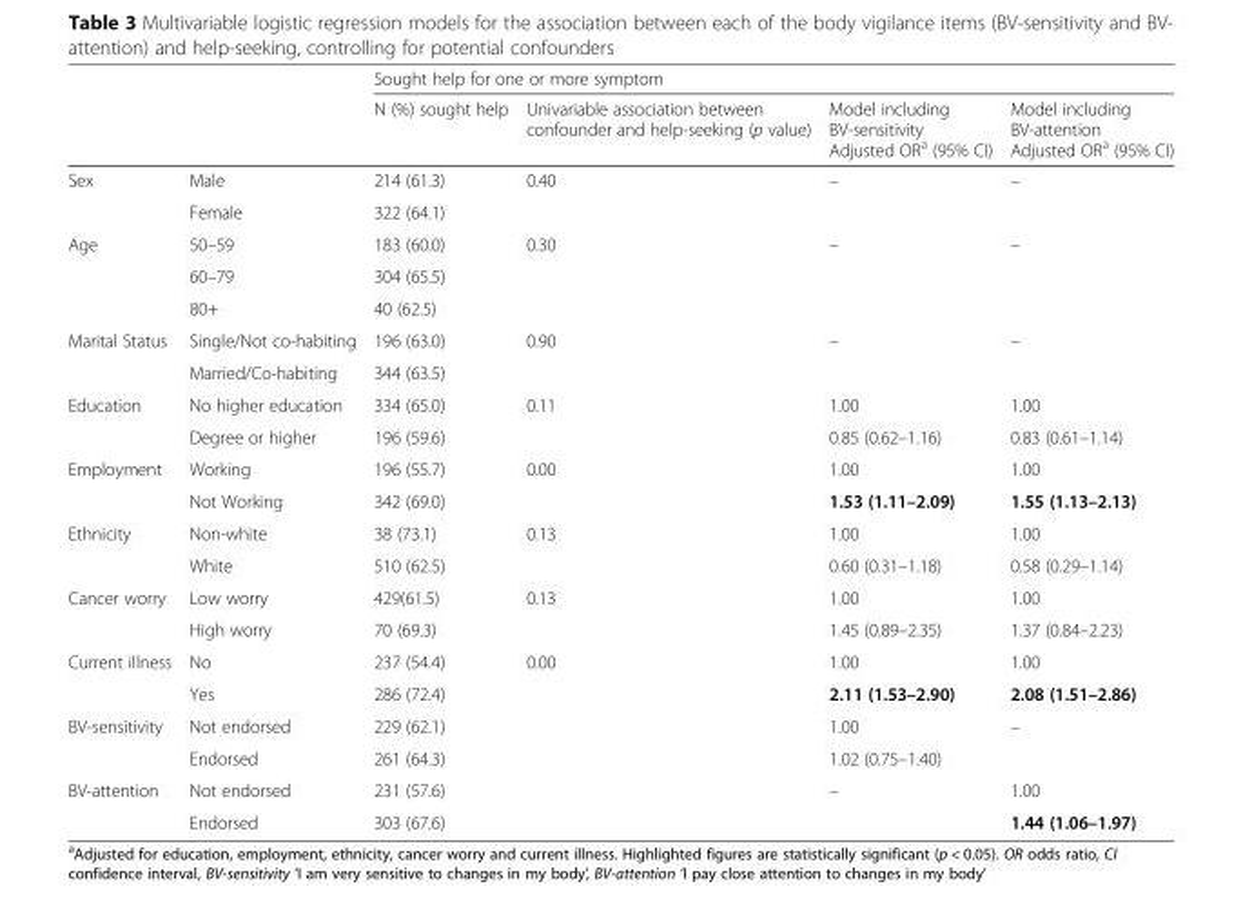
<table><thead><tr><td rowspan="2"></td><td rowspan="2"></td><td colspan="4">Sought help for one or more symptom</td></tr><tr><td>N (%) sought help</td><td>Univariable association between confounder and help-seeking (p value)</td><td>Model including BV-sensitivity Adjusted OR<sup>a</sup> (95% CI)</td><td>Model including BV-attention Adjusted OR<sup>a</sup> (95% CI)</td></tr></thead><tbody><tr><td rowspan="2">Sex</td><td>Male</td><td>214 (61.3)</td><td>0.40</td><td>–</td><td>–</td></tr><tr><td>Female</td><td>322 (64.1)</td><td></td><td></td><td></td></tr><tr><td rowspan="3">Age</td><td>50–59</td><td>183 (60.0)</td><td>0.30</td><td>–</td><td>–</td></tr><tr><td>60–79</td><td>304 (65.5)</td><td></td><td></td><td></td></tr><tr><td>80+</td><td>40 (62.5)</td><td></td><td></td><td></td></tr><tr><td rowspan="2">Marital Status</td><td>Single/Not co-habiting</td><td>196 (63.0)</td><td>0.90</td><td>–</td><td>–</td></tr><tr><td>Married/Co-habiting</td><td>344 (63.5)</td><td></td><td></td><td></td></tr><tr><td rowspan="2">Education</td><td>No higher education</td><td>334 (65.0)</td><td>0.11</td><td>1.00</td><td>1.00</td></tr><tr><td>Degree or higher</td><td>196 (59.6)</td><td></td><td>0.85 (0.62–1.16)</td><td>0.83 (0.61–1.14)</td></tr><tr><td rowspan="2">Employment</td><td>Working</td><td>196 (55.7)</td><td>0.00</td><td>1.00</td><td>1.00</td></tr><tr><td>Not Working</td><td>342 (69.0)</td><td></td><td>1.53 (1.11–2.09)</td><td>1.55 (1.13–2.13)</td></tr><tr><td rowspan="2">Ethnicity</td><td>Non-white</td><td>38 (73.1)</td><td>0.13</td><td>1.00</td><td>1.00</td></tr><tr><td>White</td><td>510 (62.5)</td><td></td><td>0.60 (0.31–1.18)</td><td>0.58 (0.29–1.14)</td></tr><tr><td rowspan="2">Cancer worry</td><td>Low worry</td><td>429(61.5)</td><td>0.13</td><td>1.00</td><td>1.00</td></tr><tr><td>High worry</td><td>70 (69.3)</td><td></td><td>1.45 (0.89–2.35)</td><td>1.37 (0.84–2.23)</td></tr><tr><td rowspan="2">Current illness</td><td>No</td><td>237 (54.4)</td><td>0.00</td><td>1.00</td><td>1.00</td></tr><tr><td>Yes</td><td>286 (72.4)</td><td></td><td>2.11 (1.53–2.90)</td><td>2.08 (1.51–2.86)</td></tr><tr><td rowspan="2">BV-sensitivity</td><td>Not endorsed</td><td>229 (62.1)</td><td></td><td>1.00</td><td>–</td></tr><tr><td>Endorsed</td><td>261 (64.3)</td><td></td><td>1.02 (0.75–1.40)</td><td></td></tr><tr><td rowspan="2">BV-attention</td><td>Not endorsed</td><td>231 (57.6)</td><td></td><td>–</td><td>1.00</td></tr><tr><td>Endorsed</td><td>303 (67.6)</td><td></td><td></td><td>1.44 (1.06–1.97)</td></tr></tbody></table>